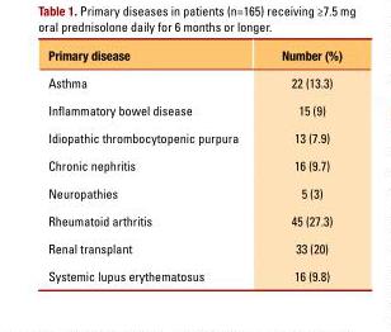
<table><thead><tr><td>Primary disease</td><td>Number (%)</td></tr></thead><tbody><tr><td>Asthma</td><td>22 (13.3)</td></tr><tr><td>inflammatory bowel disease</td><td>15 (9)</td></tr><tr><td>idiopathic thrombocytopenic purpura</td><td>13 (7.9)</td></tr><tr><td>chronic nephritis</td><td>16 (9.7)</td></tr><tr><td>neuropathies</td><td>5 (3)</td></tr><tr><td>rheumatoid arthritis</td><td>45 (27.3)</td></tr><tr><td>renal transplant</td><td>33 (20)</td></tr><tr><td>Systemic lupus erythematosus</td><td>16 (9.8)</td></tr></tbody></table>